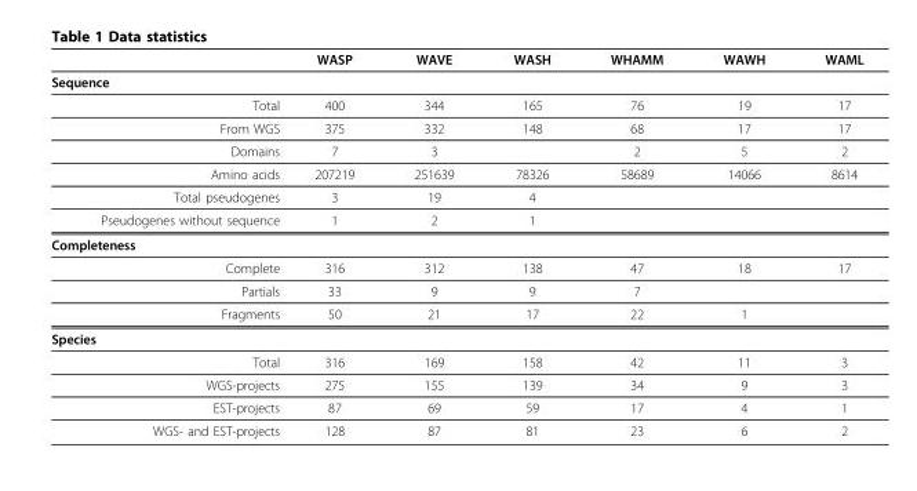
<table><thead><tr><td></td><td>WASP</td><td>WAVE</td><td>WASH</td><td>WHAMM</td><td>WAWH</td><td>WAML</td></tr></thead><tbody><tr><td colspan="7">Sequence</td></tr><tr><td>Total</td><td>400</td><td>344</td><td>165</td><td>76</td><td>19</td><td>17</td></tr><tr><td>From WGS</td><td>375</td><td>332</td><td>148</td><td>68</td><td>17</td><td>17</td></tr><tr><td>Domains</td><td>7</td><td>3</td><td></td><td>2</td><td>5</td><td>2</td></tr><tr><td>Amino acids</td><td>207219</td><td>251639</td><td>78326</td><td>58689</td><td>14066</td><td>8614</td></tr><tr><td>Total pseudogenes</td><td>3</td><td>19</td><td>4</td><td></td><td></td><td></td></tr><tr><td>Pseudogenes without sequence</td><td>1</td><td>2</td><td>1</td><td></td><td></td><td></td></tr><tr><td colspan="7">Completeness</td></tr><tr><td>Complete</td><td>316</td><td>312</td><td>138</td><td>47</td><td>18</td><td>17</td></tr><tr><td>Partials</td><td>33</td><td>9</td><td>9</td><td>7</td><td></td><td></td></tr><tr><td>Fragments</td><td>50</td><td>21</td><td>17</td><td>22</td><td>1</td><td></td></tr><tr><td colspan="7">Species</td></tr><tr><td>Total</td><td>316</td><td>169</td><td>158</td><td>42</td><td>11</td><td>3</td></tr><tr><td>WGS-projects</td><td>275</td><td>155</td><td>139</td><td>34</td><td>9</td><td>3</td></tr><tr><td>EST-projects</td><td>87</td><td>69</td><td>59</td><td>17</td><td>4</td><td>1</td></tr><tr><td>WGS- and EST-projects</td><td>128</td><td>87</td><td>81</td><td>23</td><td>6</td><td>2</td></tr></tbody></table>